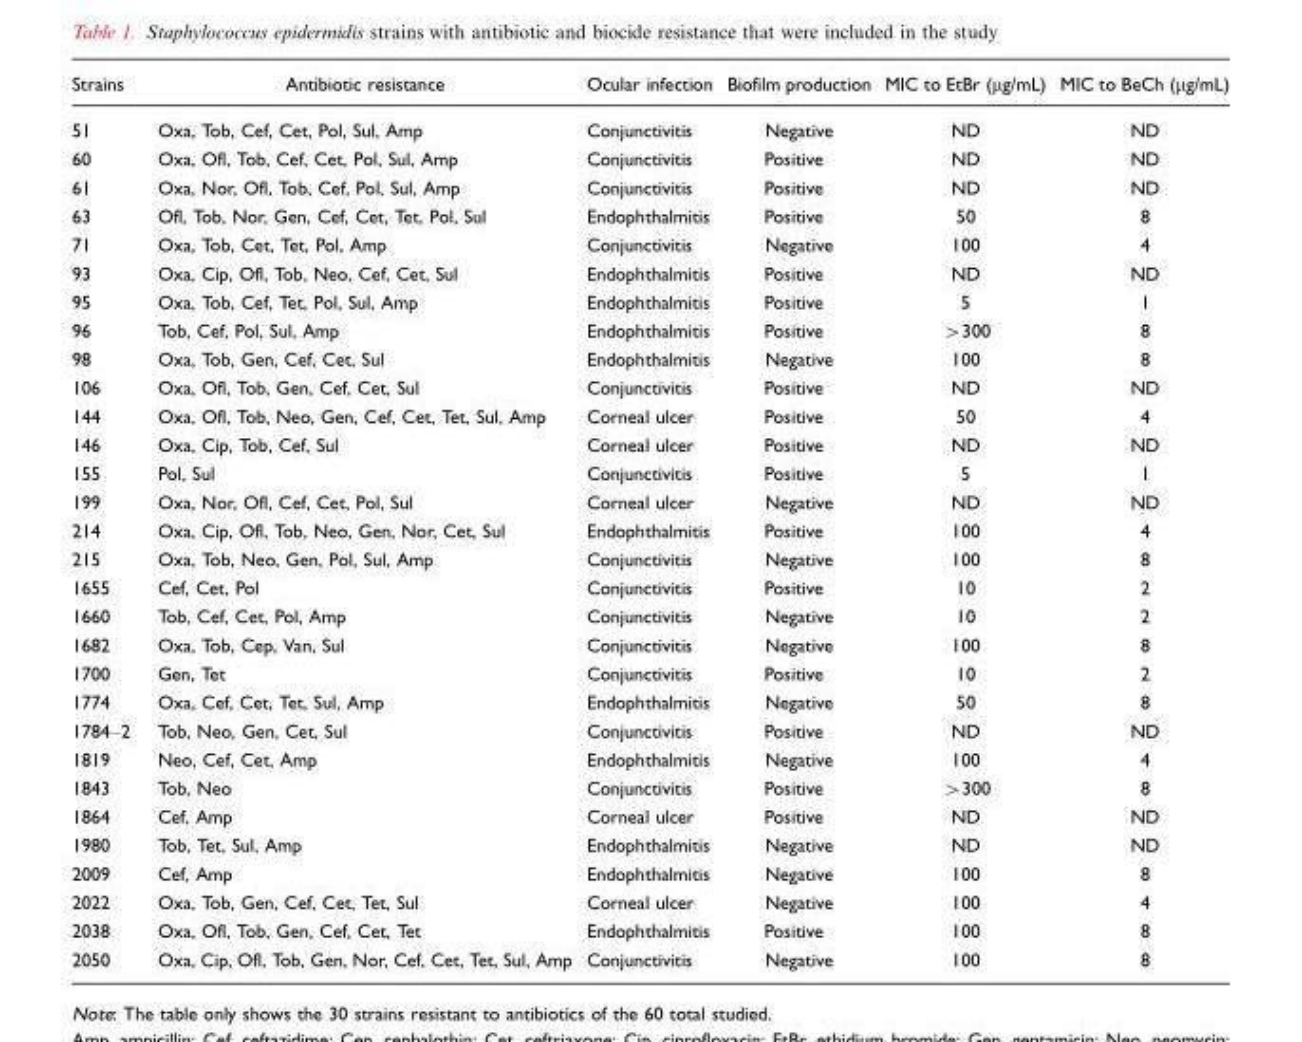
<table><thead><tr><td>Strains</td><td>Antibiotic resistance</td><td>Ocular infection</td><td>Biofilm production</td><td>MIC to EtBr (μg/mL)</td><td>MIC to BeCh (μg/mL)</td></tr></thead><tbody><tr><td>51</td><td>Oxa, Tob, Cef, Cet, Pol, Sul, Amp</td><td>Conjunctivitis</td><td>Negative</td><td>ND</td><td>ND</td></tr><tr><td>60</td><td>Oxa, Ofl, Tob, Cef, Cet, Pol, Sul, Amp</td><td>Conjunctivitis</td><td>Positive</td><td>ND</td><td>ND</td></tr><tr><td>61</td><td>Oxa, Nor, Ofl, Tob, Cef, Pol, Sul, Amp</td><td>Conjunctivitis</td><td>Positive</td><td>ND</td><td>ND</td></tr><tr><td>63</td><td>Ofl, Tob, Nor, Gen, Cef, Cet, Tet, Pol, Sul</td><td>Endophthalmitis</td><td>Positive</td><td>50</td><td>8</td></tr><tr><td>71</td><td>Oxa, Tob, Cet, Tet, Pol, Amp</td><td>Conjunctivitis</td><td>Negative</td><td>100</td><td>4</td></tr><tr><td>93</td><td>Oxa, Cip, Ofl, Tob, Neo, Cef, Cet, Sul</td><td>Endophthalmitis</td><td>Positive</td><td>ND</td><td>ND</td></tr><tr><td>95</td><td>Oxa, Tob, Cef, Tet, Pol, Sul, Amp</td><td>Endophthalmitis</td><td>Positive</td><td>5</td><td>1</td></tr><tr><td>96</td><td>Tob, Cef, Pol, Sul, Amp</td><td>Endophthalmitis</td><td>Positive</td><td>&gt;300</td><td>8</td></tr><tr><td>98</td><td>Oxa, Tob, Gen, Cef, Cet, Sul</td><td>Endophthalmitis</td><td>Negative</td><td>100</td><td>8</td></tr><tr><td>106</td><td>Oxa, Ofl, Tob, Gen, Cef, Cet, Sul</td><td>Conjunctivitis</td><td>Positive</td><td>ND</td><td>ND</td></tr><tr><td>144</td><td>Oxa, Ofl, Tob, Neo, Gen, Cef, Cet, Tet, Sul, Amp</td><td>Corneal ulcer</td><td>Positive</td><td>50</td><td>4</td></tr><tr><td>146</td><td>Oxa, Cip, Tob, Cef, Sul</td><td>Corneal ulcer</td><td>Positive</td><td>ND</td><td>ND</td></tr><tr><td>155</td><td>Pol, Sul</td><td>Conjunctivitis</td><td>Positive</td><td>5</td><td>1</td></tr><tr><td>199</td><td>Oxa, Nor, Ofl, Cef, Cet, Pol, Sul</td><td>Corneal ulcer</td><td>Negative</td><td>ND</td><td>ND</td></tr><tr><td>214</td><td>Oxa, Cip, Ofl, Tob, Neo, Gen, Nor, Cet, Sul</td><td>Endophthalmitis</td><td>Positive</td><td>100</td><td>4</td></tr><tr><td>215</td><td>Oxa, Tob, Neo, Gen, Pol, Sul, Amp</td><td>Conjunctivitis</td><td>Negative</td><td>100</td><td>8</td></tr><tr><td>1655</td><td>Cef, Cet, Pol</td><td>Conjunctivitis</td><td>Positive</td><td>10</td><td>2</td></tr><tr><td>1660</td><td>Tob, Cef, Cet, Pol, Amp</td><td>Conjunctivitis</td><td>Negative</td><td>10</td><td>2</td></tr><tr><td>1682</td><td>Oxa, Tob, Cep, Van, Sul</td><td>Conjunctivitis</td><td>Negative</td><td>100</td><td>8</td></tr><tr><td>1700</td><td>Gen, Tet</td><td>Conjunctivitis</td><td>Positive</td><td>10</td><td>2</td></tr><tr><td>1774</td><td>Oxa, Cef, Cet, Tet, Sul, Amp</td><td>Endophthalmitis</td><td>Negative</td><td>50</td><td>8</td></tr><tr><td>1784–2</td><td>Tob, Neo, Gen, Cet, Sul</td><td>Conjunctivitis</td><td>Positive</td><td>ND</td><td>ND</td></tr><tr><td>1819</td><td>Neo, Cef, Cet, Amp</td><td>Endophthalmitis</td><td>Negative</td><td>100</td><td>4</td></tr><tr><td>1843</td><td>Tob, Neo</td><td>Conjunctivitis</td><td>Positive</td><td>&gt;300</td><td>8</td></tr><tr><td>1864</td><td>Cef, Amp</td><td>Corneal ulcer</td><td>Positive</td><td>ND</td><td>ND</td></tr><tr><td>1980</td><td>Tob, Tet, Sul, Amp</td><td>Endophthalmitis</td><td>Negative</td><td>ND</td><td>ND</td></tr><tr><td>2009</td><td>Cef, Amp</td><td>Endophthalmitis</td><td>Negative</td><td>100</td><td>8</td></tr><tr><td>2022</td><td>Oxa, Tob, Gen, Cef, Cet, Tet, Sul</td><td>Corneal ulcer</td><td>Negative</td><td>100</td><td>4</td></tr><tr><td>2038</td><td>Oxa, Ofl, Tob, Gen, Cef, Cet, Tet</td><td>Endophthalmitis</td><td>Positive</td><td>100</td><td>8</td></tr><tr><td>2050</td><td>Oxa, Cip, Ofl, Tob, Gen, Nor, Cef, Cet, Tet, Sul, Amp</td><td>Conjunctivitis</td><td>Negative</td><td>100</td><td>8</td></tr></tbody></table>